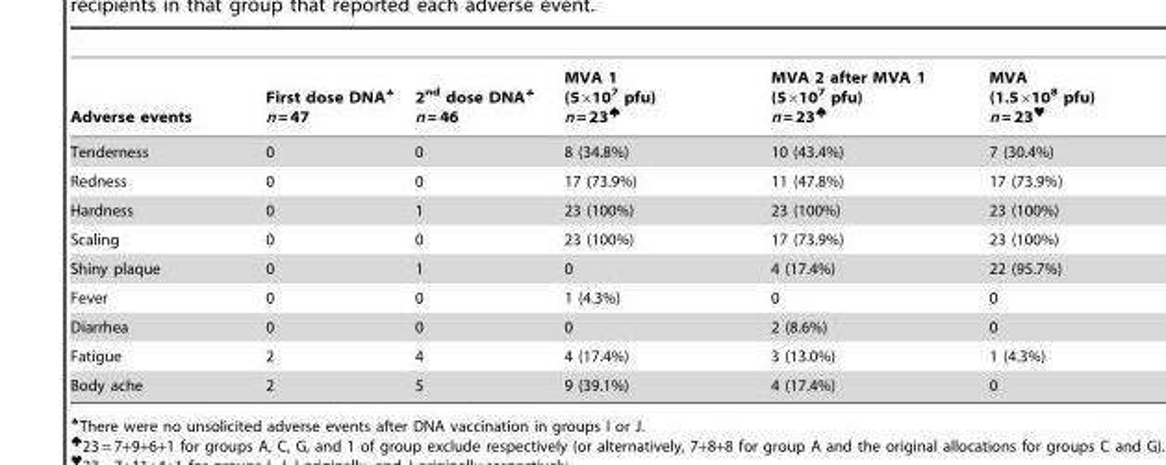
<table><thead><tr><td>Adverse events</td><td>First dose DNA§ n = 47</td><td>2nd dose DNA§ n = 46</td><td>MVA 1 (5×10<sup>7</sup> pfu) n = 23<sup>♠</sup></td><td>MVA 2 after MVA 1 (5×10<sup>7</sup> pfu) n = 23<sup>♠</sup></td><td>MVA (1.56108 pfu) n = 23#</td></tr></thead><tbody><tr><td>Tenderness</td><td>0</td><td>0</td><td>8 (34.8%)</td><td>10 (43.4%)</td><td>7 (30.4%)</td></tr><tr><td>Redness</td><td>0</td><td>0</td><td>17 (73.9%)</td><td>11 (47.8%)</td><td>17 (73.9%)</td></tr><tr><td>Hardness</td><td>0</td><td>1</td><td>23 (100%)</td><td>23 (100%)</td><td>23 (100%)</td></tr><tr><td>Scaling</td><td>0</td><td>0</td><td>23 (100%)</td><td>17 (73.9%)</td><td>23 (100%)</td></tr><tr><td>Shiny plaque</td><td>0</td><td>1</td><td>0</td><td>4 (17.4%)</td><td>22 (95.7%)</td></tr><tr><td>Fever</td><td>0</td><td>0</td><td>1 (4.3%)</td><td>0</td><td>0</td></tr><tr><td>Diarrhea</td><td>0</td><td>0</td><td>0</td><td>2 (8.6%)</td><td>0</td></tr><tr><td>Fatigue</td><td>2</td><td>4</td><td>4 (17.4%)</td><td>3 (13.0%)</td><td>1 (4.3%)</td></tr><tr><td>Body ache</td><td>2</td><td>5</td><td>9 (39.1%)</td><td>4 (17.4%)</td><td>0</td></tr></tbody></table>